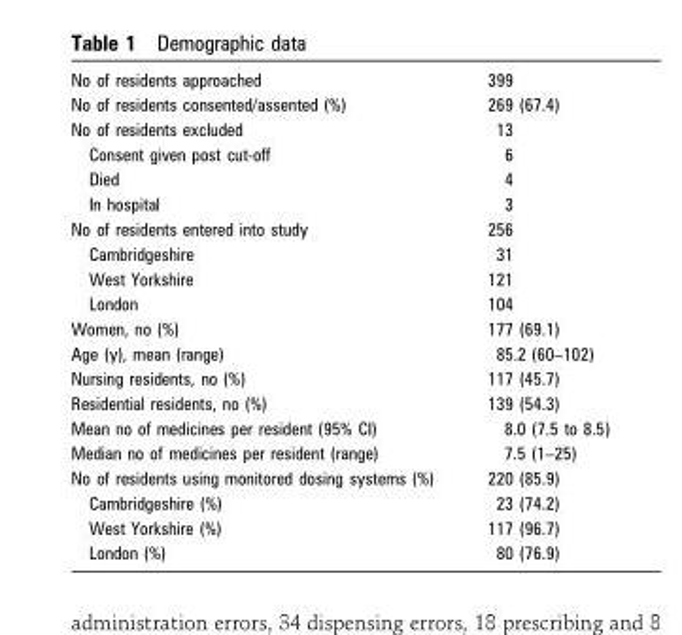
<table><tbody><tr><td>No of residents approached</td><td>399</td></tr><tr><td>No of residents consented/assented (%)</td><td>269 (67.4)</td></tr><tr><td>No of residents excluded</td><td>13</td></tr><tr><td>Consent given post cut-off</td><td>6</td></tr><tr><td>Died</td><td>4</td></tr><tr><td>In hospital</td><td>3</td></tr><tr><td>No of residents entered into study</td><td>256</td></tr><tr><td>Cambridgeshire</td><td>31</td></tr><tr><td>West Yorkshire</td><td>121</td></tr><tr><td>London</td><td>104</td></tr><tr><td>Women, no (%)</td><td>177 (69.1)</td></tr><tr><td>Age (y), mean (range)</td><td>85.2 (60–102)</td></tr><tr><td>Nursing residents, no (%)</td><td>117 (45.7)</td></tr><tr><td>Residential residents, no (%)</td><td>139 (54.3)</td></tr><tr><td>Mean no of medicines per resident (95% CI)</td><td>8.0 (7.5 to 8.5)</td></tr><tr><td>Median no of medicines per resident (range)</td><td>7.5 (1–25)</td></tr><tr><td>No of residents using monitored dosing systems (%)</td><td>220 (85.9)</td></tr><tr><td>Cambridgeshire (%)</td><td>23 (74.2)</td></tr><tr><td>West Yorkshire (%)</td><td>117 (96.7)</td></tr><tr><td>London (%)</td><td>80 (76.9)</td></tr></tbody></table>